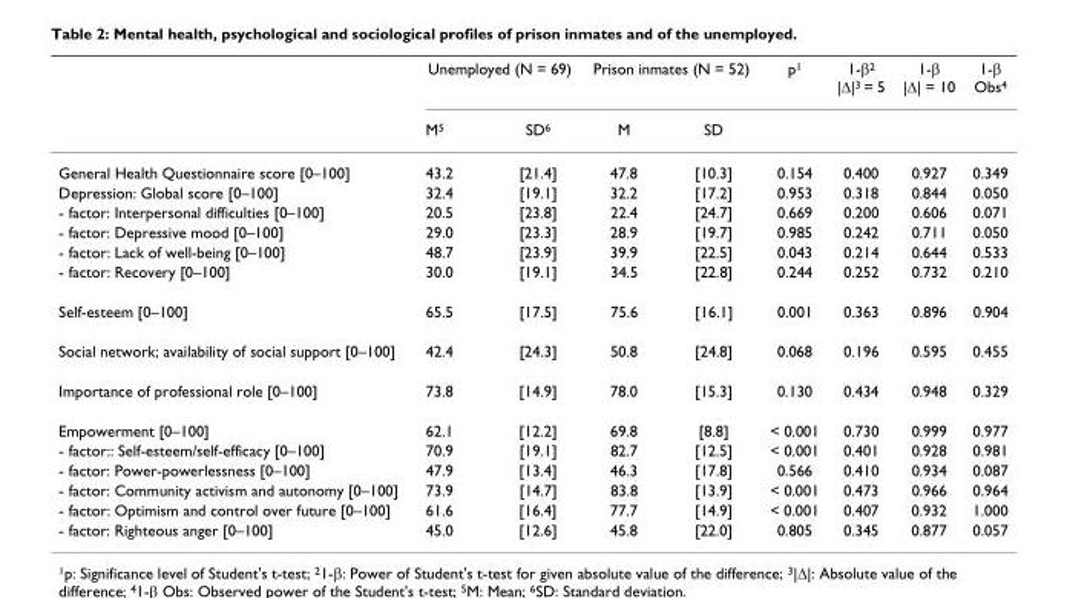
<table><thead><tr><td rowspan="2"></td><td colspan="2">Unemployed (N = 69)</td><td colspan="2">Prison inmates (N = 52)</td><td rowspan="2">p<sup>1</sup></td><td rowspan="2">1-β<sup>2</sup> |Δ|<sup>3</sup> = 5</td><td rowspan="2">1-β |Δ| = 10</td><td rowspan="2">1-β Obs<sup>4</sup></td></tr><tr><td>M<sup>5</sup></td><td>SD<sup>6</sup></td><td>M</td><td>SD</td></tr></thead><tbody><tr><td>General Health Questionnaire score [0–100]</td><td>43.2</td><td>[21.4]</td><td>47.8</td><td>[10.3]</td><td>0.154</td><td>0.400</td><td>0.927</td><td>0.349</td></tr><tr><td>Depression: Global score [0–100]</td><td>32.4</td><td>[19.1]</td><td>32.2</td><td>[17.2]</td><td>0.953</td><td>0.318</td><td>0.844</td><td>0.050</td></tr><tr><td>- factor: Interpersonal difficulties [0–100]</td><td>20.5</td><td>[23.8]</td><td>22.4</td><td>[24.7]</td><td>0.669</td><td>0.200</td><td>0.606</td><td>0.071</td></tr><tr><td>- factor: Depressive mood [0–100]</td><td>29.0</td><td>[23.3]</td><td>28.9</td><td>[19.7]</td><td>0.985</td><td>0.242</td><td>0.711</td><td>0.050</td></tr><tr><td>- factor: Lack of well-being [0–100]</td><td>48.7</td><td>[23.9]</td><td>39.9</td><td>[22.5]</td><td>0.043</td><td>0.214</td><td>0.644</td><td>0.533</td></tr><tr><td>- factor: Recovery [0–100]</td><td>30.0</td><td>[19.1]</td><td>34.5</td><td>[22.8]</td><td>0.244</td><td>0.252</td><td>0.732</td><td>0.210</td></tr><tr><td>Self-esteem [0–100]</td><td>65.5</td><td>[17.5]</td><td>75.6</td><td>[16.1]</td><td>0.001</td><td>0.363</td><td>0.896</td><td>0.904</td></tr><tr><td>Social network; availability of social support [0–100]</td><td>42.4</td><td>[24.3]</td><td>50.8</td><td>[24.8]</td><td>0.068</td><td>0.196</td><td>0.595</td><td>0.455</td></tr><tr><td>Importance of professional role [0–100]</td><td>73.8</td><td>[14.9]</td><td>78.0</td><td>[15.3]</td><td>0.130</td><td>0.434</td><td>0.948</td><td>0.329</td></tr><tr><td>Empowerment [0–100]</td><td>62.1</td><td>[12.2]</td><td>69.8</td><td>[8.8]</td><td>&lt; 0.001</td><td>0.730</td><td>0.999</td><td>0.977</td></tr><tr><td>- factor:: Self-esteem/self-efficacy [0–100]</td><td>70.9</td><td>[19.1]</td><td>82.7</td><td>[12.5]</td><td>&lt; 0.001</td><td>0.401</td><td>0.928</td><td>0.981</td></tr><tr><td>- factor: Power-powerlessness [0–100]</td><td>47.9</td><td>[13.4]</td><td>46.3</td><td>[17.8]</td><td>0.566</td><td>0.410</td><td>0.934</td><td>0.087</td></tr><tr><td>- factor: Community activism and autonomy [0–100]</td><td>73.9</td><td>[14.7]</td><td>83.8</td><td>[13.9]</td><td>&lt; 0.001</td><td>0.473</td><td>0.966</td><td>0.964</td></tr><tr><td>- factor: Optimism and control over future [0–100]</td><td>61.6</td><td>[16.4]</td><td>77.7</td><td>[14.9]</td><td>&lt; 0.001</td><td>0.407</td><td>0.932</td><td>1.000</td></tr><tr><td>- factor: Righteous anger [0–100]</td><td>45.0</td><td>[12.6]</td><td>45.8</td><td>[22.0]</td><td>0.805</td><td>0.345</td><td>0.877</td><td>0.057</td></tr></tbody></table>